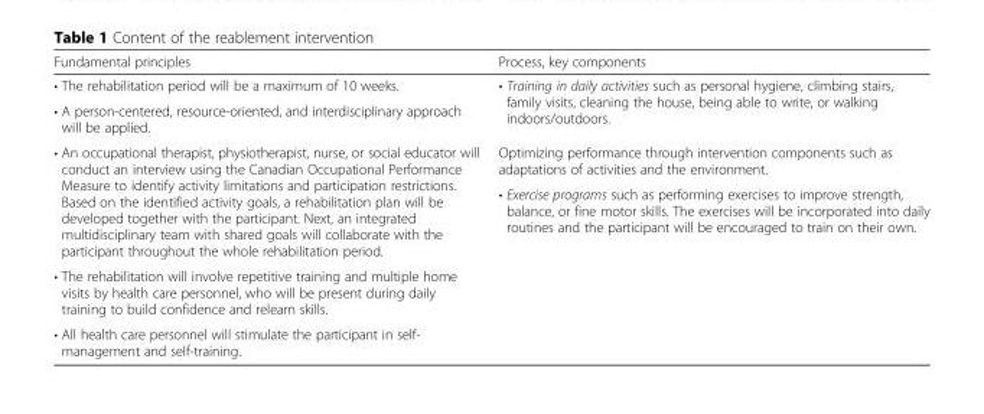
<table><thead><tr><td>Fundamental principles</td><td>Process, key components</td></tr></thead><tbody><tr><td>• The rehabilitation period will be a maximum of 10 weeks.</td><td rowspan="2">• Training in daily activities such as personal hygiene, climbing stairs, family visits, cleaning the house, being able to write, or walking indoors/outdoors.</td></tr><tr><td>• A person-centered, resource-oriented, and interdisciplinary approach will be applied.</td></tr><tr><td rowspan="2">• An occupational therapist, physiotherapist, nurse, or social educator will conduct an interview using the Canadian Occupational Performance Measure to identify activity limitations and participation restrictions. Based on the identified activity goals, a rehabilitation plan will be developed together with the participant. Next, an integrated multidisciplinary team with shared goals will collaborate with the participant throughout the whole rehabilitation period.</td><td>Optimizing performance through intervention components such as adaptations of activities and the environment.</td></tr><tr><td>• Exercise programs such as performing exercises to improve strength, balance, or fine motor skills. The exercises will be incorporated into daily routines and the participant will be encouraged to train on their own.</td></tr><tr><td>• The rehabilitation will involve repetitive training and multiple home visits by health care personnel, who will be present during daily training to build confidence and relearn skills.</td><td rowspan="2"></td></tr><tr><td>• All health care personnel will stimulate the participant in self- management and self-training.</td></tr></tbody></table>